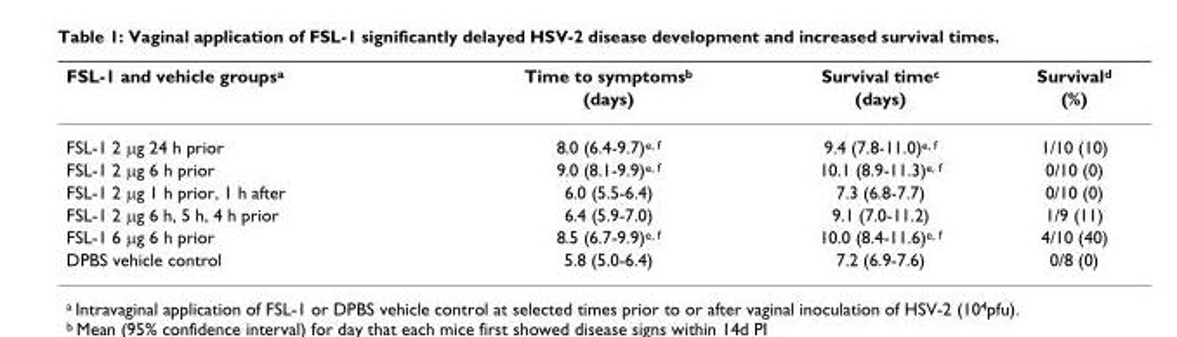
<table><thead><tr><td rowspan="2">FSL-1 and vehicle groups<sup>a</sup></td><td rowspan="2">Time to symptoms<sup>b</sup> (days)</td><td rowspan="2">Survival time<sup>c</sup> (days)</td><td rowspan="2">Survival<sup>d</sup> (%)</td></tr><tr></tr></thead><tbody><tr><td>FSL-1 2 μg 24 h prior</td><td>8.0 (6.4-9.7)<sup>e, f</sup></td><td>9.4 (7.8-11.0)<sup>e, f</sup></td><td>1/10 (10)</td></tr><tr><td>FSL-1 2 μg 6 h prior</td><td>9.0 (8.1-9.9)<sup>e, f</sup></td><td>10.1 (8.9-11.3)<sup>e, f</sup></td><td>0/10 (0)</td></tr><tr><td>FSL-1 2 μg 1 h prior, 1 h after</td><td>6.0 (5.5-6.4)</td><td>7.3 (6.8-7.7)</td><td>0/10 (0)</td></tr><tr><td>FSL-1 2 μg 6 h, 5 h, 4 h prior</td><td>6.4 (5.9-7.0)</td><td>9.1 (7.0-11.2)</td><td>1/9 (11)</td></tr><tr><td>FSL-1 6 μg 6 h prior</td><td>8.5 (6.7-9.9)<sup>e, f</sup></td><td>10.0 (8.4-11.6)<sup>e, f</sup></td><td>4/10 (40)</td></tr><tr><td>DPBS vehicle control</td><td>5.8 (5.0-6.4)</td><td>7.2 (6.9-7.6)</td><td>0/8 (0)</td></tr></tbody></table>